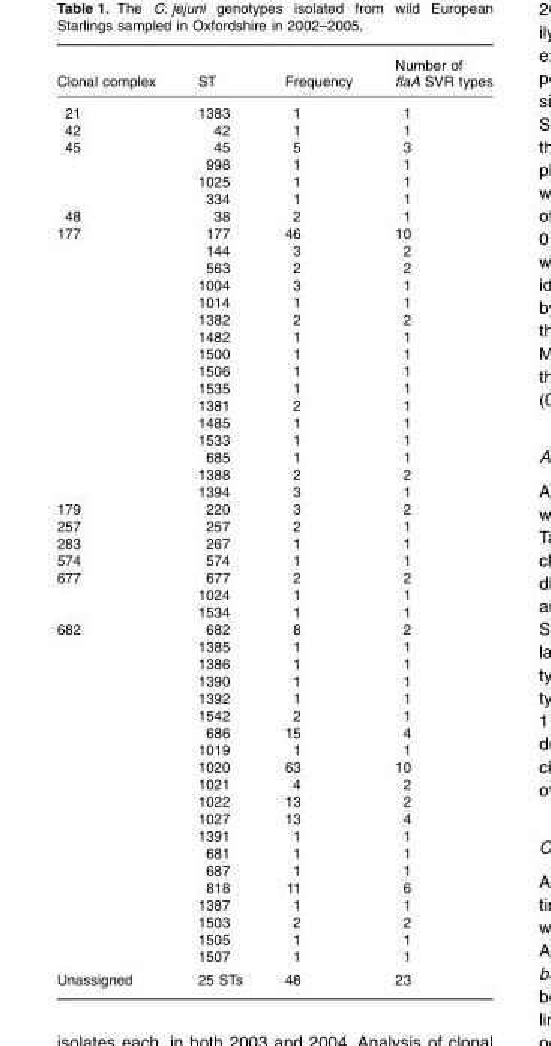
<table><thead><tr><td>Clonal complex</td><td>ST</td><td>Frequency</td><td>Number of flaA SVR types</td></tr></thead><tbody><tr><td>21</td><td>1383</td><td>1</td><td>1</td></tr><tr><td>42</td><td>42</td><td>1</td><td>1</td></tr><tr><td rowspan="4">45</td><td>45</td><td>5</td><td>3</td></tr><tr><td>998</td><td>1</td><td>1</td></tr><tr><td>1025</td><td>1</td><td>1</td></tr><tr><td>334</td><td>1</td><td>1</td></tr><tr><td>48</td><td>38</td><td>2</td><td>1</td></tr><tr><td rowspan="16">177</td><td>177</td><td>46</td><td>10</td></tr><tr><td>144</td><td>3</td><td>2</td></tr><tr><td>563</td><td>2</td><td>2</td></tr><tr><td>1004</td><td>3</td><td>1</td></tr><tr><td>1014</td><td>1</td><td>1</td></tr><tr><td>1382</td><td>2</td><td>2</td></tr><tr><td>1482</td><td>1</td><td>1</td></tr><tr><td>1500</td><td>1</td><td>1</td></tr><tr><td>1506</td><td>1</td><td>1</td></tr><tr><td>1535</td><td>1</td><td>1</td></tr><tr><td>1381</td><td>2</td><td>1</td></tr><tr><td>1485</td><td>1</td><td>1</td></tr><tr><td>1533</td><td>1</td><td>1</td></tr><tr><td>685</td><td>1</td><td>1</td></tr><tr><td>1388</td><td>2</td><td>2</td></tr><tr><td>1394</td><td>3</td><td>1</td></tr><tr><td>179</td><td>220</td><td>3</td><td>2</td></tr><tr><td>257</td><td>257</td><td>2</td><td>1</td></tr><tr><td>283</td><td>267</td><td>1</td><td>1</td></tr><tr><td>574</td><td>574</td><td>1</td><td>1</td></tr><tr><td rowspan="3">677</td><td>677</td><td>2</td><td>2</td></tr><tr><td>1024</td><td>1</td><td>1</td></tr><tr><td>1534</td><td>1</td><td>1</td></tr><tr><td rowspan="20">682</td><td>682</td><td>8</td><td>2</td></tr><tr><td>1385</td><td>1</td><td>1</td></tr><tr><td>1386</td><td>1</td><td>1</td></tr><tr><td>1390</td><td>1</td><td>1</td></tr><tr><td>1392</td><td>1</td><td>1</td></tr><tr><td>1542</td><td>2</td><td>1</td></tr><tr><td>686</td><td>15</td><td>4</td></tr><tr><td>1019</td><td>1</td><td>1</td></tr><tr><td>1020</td><td>63</td><td>10</td></tr><tr><td>1021</td><td>4</td><td>2</td></tr><tr><td>1022</td><td>13</td><td>2</td></tr><tr><td>1027</td><td>13</td><td>4</td></tr><tr><td>1391</td><td>1</td><td>1</td></tr><tr><td>681</td><td>1</td><td>1</td></tr><tr><td>687</td><td>1</td><td>1</td></tr><tr><td>818</td><td>11</td><td>6</td></tr><tr><td>1387</td><td>1</td><td>1</td></tr><tr><td>1503</td><td>2</td><td>2</td></tr><tr><td>1505</td><td>1</td><td>1</td></tr><tr><td>1507</td><td>1</td><td>1</td></tr><tr><td>Unassigned</td><td>25 STs</td><td>48</td><td>23</td></tr></tbody></table>